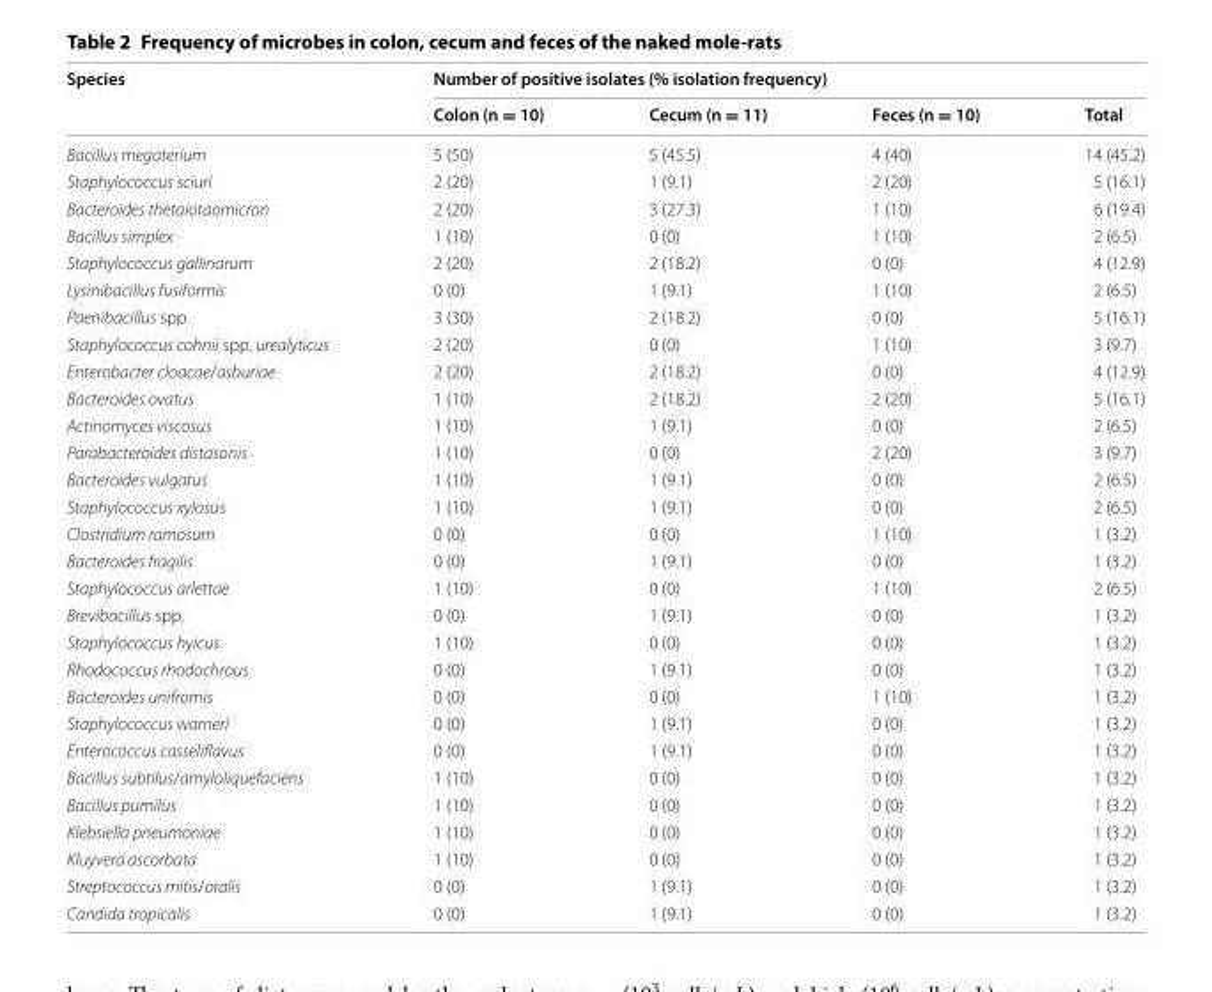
<table><thead><tr><td rowspan="2">Species</td><td colspan="4">Number of positive isolates (% isolation frequency)</td></tr><tr><td>Colon (n = 10)</td><td>Cecum (n = 11)</td><td>Feces (n = 10)</td><td>Total</td></tr></thead><tbody><tr><td>Bacillus megaterium</td><td>5 (50)</td><td>5 (45.5)</td><td>4 (40)</td><td>14 (45.2)</td></tr><tr><td>Staphylococcus sciuri</td><td>2 (20)</td><td>1 (9.1)</td><td>2 (20)</td><td>5 (16.1)</td></tr><tr><td>Bacteroides thetaiotaomicron</td><td>2 (20)</td><td>3 (27.3)</td><td>1 (10)</td><td>6 (19.4)</td></tr><tr><td>Bacillus simplex</td><td>1 (10)</td><td>0 (0)</td><td>1 (10)</td><td>2 (6.5)</td></tr><tr><td>Staphylococcus gallinarum</td><td>2 (20)</td><td>2 (18.2)</td><td>0 (0)</td><td>4 (12.9)</td></tr><tr><td>Lysinibacillus fusiformis</td><td>0 (0)</td><td>1 (9.1)</td><td>1 (10)</td><td>2 (6.5)</td></tr><tr><td>Paenibacillus spp.</td><td>3 (30)</td><td>2 (18.2)</td><td>0 (0)</td><td>5 (16.1)</td></tr><tr><td>Staphylococcus cohnii spp. urealyticus</td><td>2 (20)</td><td>0 (0)</td><td>1 (10)</td><td>3 (9.7)</td></tr><tr><td>Enterobacter cloacae/asburiae</td><td>2 (20)</td><td>2 (18.2)</td><td>0 (0)</td><td>4 (12.9)</td></tr><tr><td>Bacteroides ovatus</td><td>1 (10)</td><td>2 (18.2)</td><td>2 (20)</td><td>5 (16.1)</td></tr><tr><td>Actinomyces viscosus</td><td>1 (10)</td><td>1 (9.1)</td><td>0 (0)</td><td>2 (6.5)</td></tr><tr><td>Parabacteroides distasonis</td><td>1 (10)</td><td>0 (0)</td><td>2 (20)</td><td>3 (9.7)</td></tr><tr><td>Bacteroides vulgatus</td><td>1 (10)</td><td>1 (9.1)</td><td>0 (0)</td><td>2 (6.5)</td></tr><tr><td>Staphylococcus xylosus</td><td>1 (10)</td><td>1 (9.1)</td><td>0 (0)</td><td>2 (6.5)</td></tr><tr><td>Clostridium ramosum</td><td>0 (0)</td><td>0 (0)</td><td>1 (10)</td><td>1 (3.2)</td></tr><tr><td>Bacteroides fragilis</td><td>0 (0)</td><td>1 (9.1)</td><td>0 (0)</td><td>1 (3.2)</td></tr><tr><td>Staphylococcus arlettae</td><td>1 (10)</td><td>0 (0)</td><td>1 (10)</td><td>2 (6.5)</td></tr><tr><td>Brevibacillus spp.</td><td>0 (0)</td><td>1 (9.1)</td><td>0 (0)</td><td>1 (3.2)</td></tr><tr><td>Staphylococcus hyicus</td><td>1 (10)</td><td>0 (0)</td><td>0 (0)</td><td>1 (3.2)</td></tr><tr><td>Rhodococcus rhodochrous</td><td>0 (0)</td><td>1 (9.1)</td><td>0 (0)</td><td>1 (3.2)</td></tr><tr><td>Bacteroides unifromis</td><td>0 (0)</td><td>0 (0)</td><td>1 (10)</td><td>1 (3.2)</td></tr><tr><td>Staphylococcus warneri</td><td>0 (0)</td><td>1 (9.1)</td><td>0 (0)</td><td>1 (3.2)</td></tr><tr><td>Enterococcus casseliflavus</td><td>0 (0)</td><td>1 (9.1)</td><td>0 (0)</td><td>1 (3.2)</td></tr><tr><td>Bacillus subtilus/amyloliquefaciens</td><td>1 (10)</td><td>0 (0)</td><td>0 (0)</td><td>1 (3.2)</td></tr><tr><td>Bacillus pumilus</td><td>1 (10)</td><td>0 (0)</td><td>0 (0)</td><td>1 (3.2)</td></tr><tr><td>Klebsiella pneumoniae</td><td>1 (10)</td><td>0 (0)</td><td>0 (0)</td><td>1 (3.2)</td></tr><tr><td>Kluyvera ascorbata</td><td>1 (10)</td><td>0 (0)</td><td>0 (0)</td><td>1 (3.2)</td></tr><tr><td>Streptococcus mitis/oralis</td><td>0 (0)</td><td>1 (9.1)</td><td>0 (0)</td><td>1 (3.2)</td></tr><tr><td>Candida tropicalis</td><td>0 (0)</td><td>1 (9.1)</td><td>0 (0)</td><td>1 (3.2)</td></tr></tbody></table>